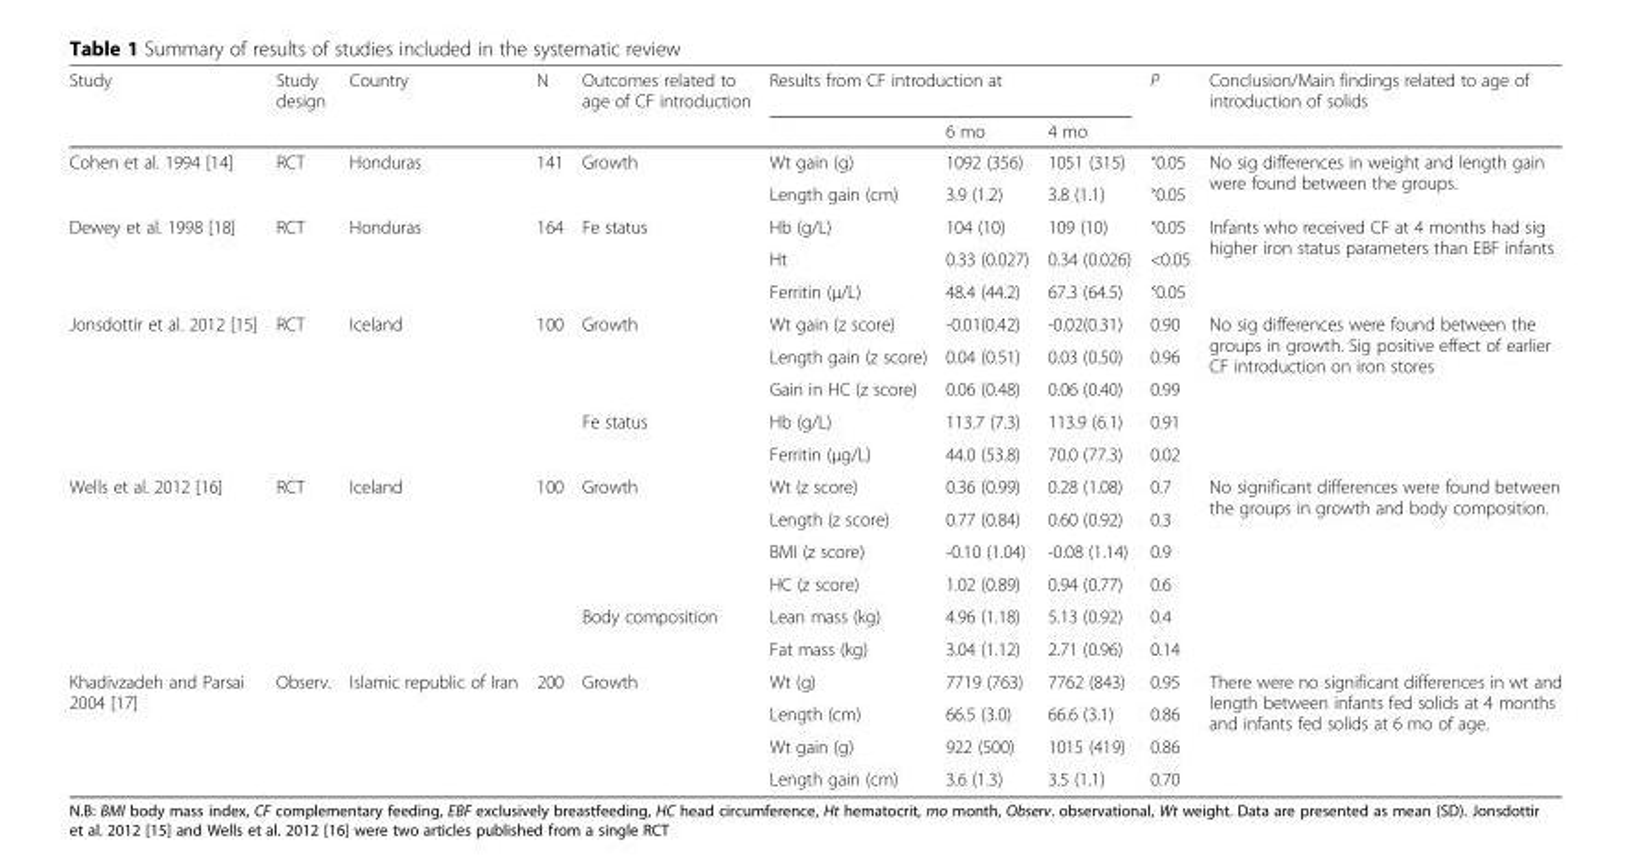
<table><thead><tr><td rowspan="2">Study</td><td rowspan="2">Study design</td><td rowspan="2">Country</td><td rowspan="2">N</td><td rowspan="2">Outcomes related to age of CF introduction</td><td colspan="3">Results from CF introduction at</td><td rowspan="2">P</td><td rowspan="2">Conclusion/Main findings related to age of introduction of solids</td></tr><tr><td></td><td>6 mo</td><td>4 mo</td></tr></thead><tbody><tr><td rowspan="2">Cohen et al. 1994 [14]</td><td rowspan="2">RCT</td><td rowspan="2">Honduras</td><td rowspan="2">141</td><td rowspan="2">Growth</td><td>Wt gain (g)</td><td>1092 (356)</td><td>1051 (315)</td><td>˃0.05</td><td rowspan="2">No sig differences in weight and length gain were found between the groups.</td></tr><tr><td>Length gain (cm)</td><td>3.9 (1.2)</td><td>3.8 (1.1)</td><td>˃0.05</td></tr><tr><td rowspan="3">Dewey et al. 1998 [18]</td><td rowspan="3">RCT</td><td rowspan="3">Honduras</td><td rowspan="3">164</td><td rowspan="3">Fe status</td><td>Hb (g/L)</td><td>104 (10)</td><td>109 (10)</td><td>˂0.05</td><td rowspan="3">Infants who received CF at 4 months had sig higher iron status parameters than EBF infants</td></tr><tr><td>Ht</td><td>0.33 (0.027)</td><td>0.34 (0.026)</td><td>&lt;0.05</td></tr><tr><td>Ferritin (μ/L)</td><td>48.4 (44.2)</td><td>67.3 (64.5)</td><td>˂0.05</td></tr><tr><td rowspan="5">Jonsdottir et al. 2012 [15]</td><td rowspan="5">RCT</td><td rowspan="5">Iceland</td><td rowspan="5">100</td><td>Growth</td><td>Wt gain (z score)</td><td>-0.01(0.42)</td><td>-0.02(0.31)</td><td>0.90</td><td rowspan="5">No sig differences were found between the groups in growth. Sig positive effect of earlier CF introduction on iron stores</td></tr><tr><td rowspan="2"></td><td>Length gain (z score)</td><td>0.04 (0.51)</td><td>0.03 (0.50)</td><td>0.96</td></tr><tr><td>Gain in HC (z score)</td><td>0.06 (0.48)</td><td>0.06 (0.40)</td><td>0.99</td></tr><tr><td rowspan="2">Fe status</td><td>Hb (g/L)</td><td>113.7 (7.3)</td><td>113.9 (6.1)</td><td>0.91</td></tr><tr><td>Ferritin (μg/L)</td><td>44.0 (53.8)</td><td>70.0 (77.3)</td><td>0.02</td></tr><tr><td rowspan="6">Wells et al. 2012 [16]</td><td rowspan="6">RCT</td><td rowspan="6">Iceland</td><td rowspan="6">100</td><td>Growth</td><td>Wt (z score)</td><td>0.36 (0.99)</td><td>0.28 (1.08)</td><td>0.7</td><td rowspan="6">No significant differences were found between the groups in growth and body composition.</td></tr><tr><td rowspan="3"></td><td>Length (z score)</td><td>0.77 (0.84)</td><td>0.60 (0.92)</td><td>0.3</td></tr><tr><td>BMI (z score)</td><td>-0.10 (1.04)</td><td>-0.08 (1.14)</td><td>0.9</td></tr><tr><td>HC (z score)</td><td>1.02 (0.89)</td><td>0.94 (0.77)</td><td>0.6</td></tr><tr><td rowspan="2">Body composition</td><td>Lean mass (kg)</td><td>4.96 (1.18)</td><td>5.13 (0.92)</td><td>0.4</td></tr><tr><td>Fat mass (kg)</td><td>3.04 (1.12)</td><td>2.71 (0.96)</td><td>0.14</td></tr><tr><td rowspan="4">Khadivzadeh and Parsai 2004 [17]</td><td rowspan="4">Observ.</td><td rowspan="4">Islamic republic of Iran</td><td rowspan="4">200</td><td rowspan="4">Growth</td><td>Wt (g)</td><td>7719 (763)</td><td>7762 (843)</td><td>0.95</td><td rowspan="4">There were no significant differences in wt and length between infants fed solids at 4 months and infants fed solids at 6 mo of age.</td></tr><tr><td>Length (cm)</td><td>66.5 (3.0)</td><td>66.6 (3.1)</td><td>0.86</td></tr><tr><td>Wt gain (g)</td><td>922 (500)</td><td>1015 (419)</td><td>0.86</td></tr><tr><td>Length gain (cm)</td><td>3.6 (1.3)</td><td>3.5 (1.1)</td><td>0.70</td></tr></tbody></table>